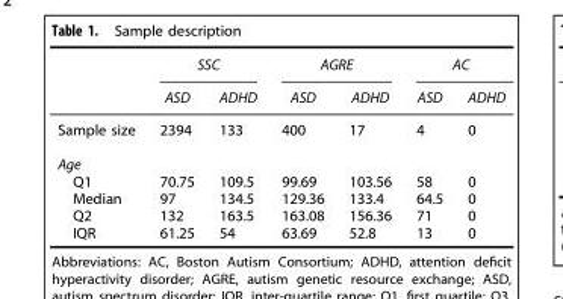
<table><thead><tr><td rowspan="2"></td><td colspan="2">SSC</td><td colspan="2">AGRE</td><td colspan="2">AC</td></tr><tr><td>ASD</td><td>ADHD</td><td>ASD</td><td>ADHD</td><td>ASD</td><td>ADHD</td></tr></thead><tbody><tr><td>Sample size</td><td>2394</td><td>133</td><td>400</td><td>17</td><td>4</td><td>0</td></tr><tr><td colspan="7">Age</td></tr><tr><td>Q1</td><td>70.75</td><td>109.5</td><td>99.69</td><td>103.56</td><td>58</td><td>0</td></tr><tr><td>Median</td><td>97</td><td>134.5</td><td>129.36</td><td>133.4</td><td>64.5</td><td>0</td></tr><tr><td>Q2</td><td>132</td><td>163.5</td><td>163.08</td><td>156.36</td><td>71</td><td>0</td></tr><tr><td>IQR</td><td>61.25</td><td>54</td><td>63.69</td><td>52.8</td><td>13</td><td>0</td></tr></tbody></table>